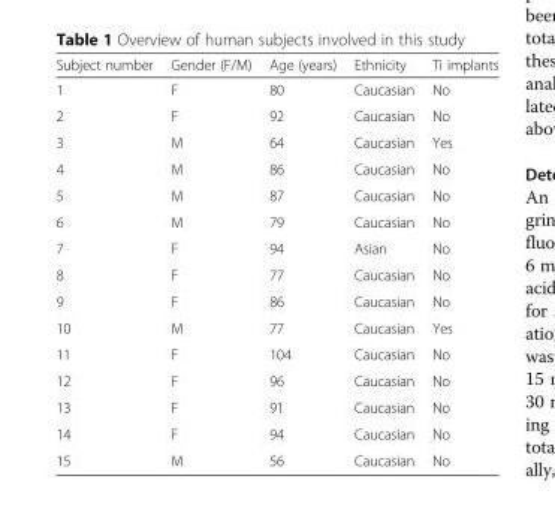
<table><thead><tr><td>Subject number</td><td>Gender (F/M)</td><td>Age (years)</td><td>Ethnicity</td><td>Ti implants</td></tr></thead><tbody><tr><td>1</td><td>F</td><td>80</td><td>Caucasian</td><td>No</td></tr><tr><td>2</td><td>F</td><td>92</td><td>Caucasian</td><td>No</td></tr><tr><td>3</td><td>M</td><td>64</td><td>Caucasian</td><td>Yes</td></tr><tr><td>4</td><td>M</td><td>86</td><td>Caucasian</td><td>No</td></tr><tr><td>5</td><td>M</td><td>87</td><td>Caucasian</td><td>No</td></tr><tr><td>6</td><td>M</td><td>79</td><td>Caucasian</td><td>No</td></tr><tr><td>7</td><td>F</td><td>94</td><td>Asian</td><td>No</td></tr><tr><td>8</td><td>F</td><td>77</td><td>Caucasian</td><td>No</td></tr><tr><td>9</td><td>F</td><td>86</td><td>Caucasian</td><td>No</td></tr><tr><td>10</td><td>M</td><td>77</td><td>Caucasian</td><td>Yes</td></tr><tr><td>11</td><td>F</td><td>104</td><td>Caucasian</td><td>No</td></tr><tr><td>12</td><td>F</td><td>96</td><td>Caucasian</td><td>No</td></tr><tr><td>13</td><td>F</td><td>91</td><td>Caucasian</td><td>No</td></tr><tr><td>14</td><td>F</td><td>94</td><td>Caucasian</td><td>No</td></tr><tr><td>15</td><td>M</td><td>56</td><td>Caucasian</td><td>No</td></tr></tbody></table>